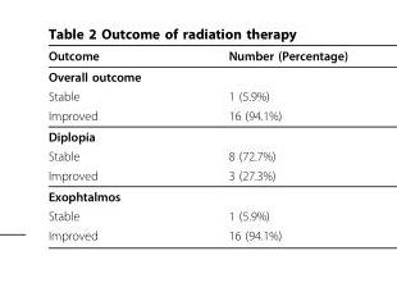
<table><thead><tr><td>Outcome</td><td>Number (Percentage)</td></tr></thead><tbody><tr><td colspan="2">Overall outcome</td></tr><tr><td>Stable</td><td>1 (5.9%)</td></tr><tr><td>Improved</td><td>16 (94.1%)</td></tr><tr><td colspan="2">Diplopia</td></tr><tr><td>Stable</td><td>8 (72.7%)</td></tr><tr><td>Improved</td><td>3 (27.3%)</td></tr><tr><td colspan="2">Exophtalmos</td></tr><tr><td>Stable</td><td>1 (5.9%)</td></tr><tr><td>Improved</td><td>16 (94.1%)</td></tr></tbody></table>